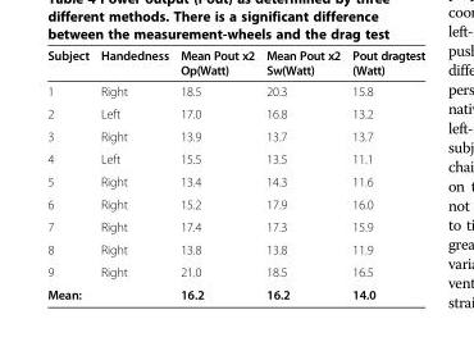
<table><thead><tr><td>Subject</td><td>Handedness</td><td>Mean Pout x2 Op(Watt)</td><td>Mean Pout x2 Sw(Watt)</td><td>Pout dragtest (Watt)</td></tr></thead><tbody><tr><td>1</td><td>Right</td><td>18.5</td><td>20.3</td><td>15.8</td></tr><tr><td>2</td><td>Left</td><td>17.0</td><td>16.8</td><td>13.2</td></tr><tr><td>3</td><td>Right</td><td>13.9</td><td>13.7</td><td>13.7</td></tr><tr><td>4</td><td>Left</td><td>15.5</td><td>13.5</td><td>11.1</td></tr><tr><td>5</td><td>Right</td><td>13.4</td><td>14.3</td><td>11.6</td></tr><tr><td>6</td><td>Right</td><td>15.2</td><td>17.9</td><td>16.0</td></tr><tr><td>7</td><td>Right</td><td>17.4</td><td>17.3</td><td>15.9</td></tr><tr><td>8</td><td>Right</td><td>13.8</td><td>13.8</td><td>11.9</td></tr><tr><td>9</td><td>Right</td><td>21.0</td><td>18.5</td><td>16.5</td></tr><tr><td>Mean:</td><td></td><td>16.2</td><td>16.2</td><td>14.0</td></tr></tbody></table>